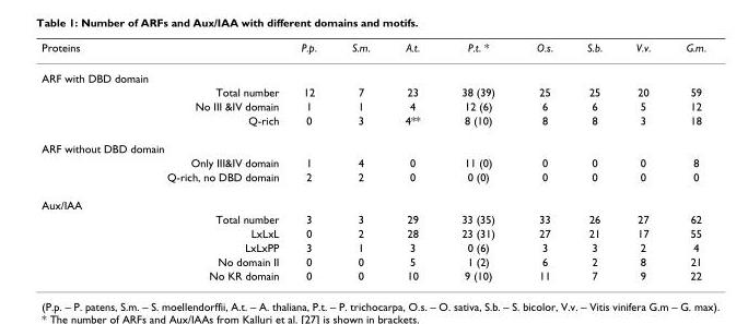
<table><thead><tr><td>Proteins</td><td>P.p.</td><td>S.m.</td><td>A.t.</td><td>P.t. *</td><td>O.s.</td><td>S.b.</td><td>V.v.</td><td>G.m.</td></tr></thead><tbody><tr><td colspan="9">ARF with DBD domain</td></tr><tr><td>Total number</td><td>12</td><td>7</td><td>23</td><td>38 (39)</td><td>25</td><td>25</td><td>20</td><td>59</td></tr><tr><td>No III &amp;IV domain</td><td>1</td><td>1</td><td>4</td><td>12 (6)</td><td>6</td><td>6</td><td>5</td><td>12</td></tr><tr><td>Q-rich</td><td>0</td><td>3</td><td>4**</td><td>8 (10)</td><td>8</td><td>8</td><td>3</td><td>18</td></tr><tr><td colspan="9">ARF without DBD domain</td></tr><tr><td>Only III&amp;IV domain</td><td>1</td><td>4</td><td>0</td><td>11 (0)</td><td>0</td><td>0</td><td>0</td><td>8</td></tr><tr><td>Q-rich, no DBD domain</td><td>2</td><td>2</td><td>0</td><td>0 (0)</td><td>0</td><td>0</td><td>0</td><td>0</td></tr><tr><td colspan="9">Aux/IAA</td></tr><tr><td>Total number</td><td>3</td><td>3</td><td>29</td><td>33 (35)</td><td>33</td><td>26</td><td>27</td><td>62</td></tr><tr><td>LxLxL</td><td>0</td><td>2</td><td>28</td><td>23 (31)</td><td>27</td><td>21</td><td>17</td><td>55</td></tr><tr><td>LxLxPP</td><td>3</td><td>1</td><td>3</td><td>0 (6)</td><td>3</td><td>3</td><td>2</td><td>4</td></tr><tr><td>No domain II</td><td>0</td><td>0</td><td>5</td><td>1 (2)</td><td>6</td><td>2</td><td>8</td><td>21</td></tr><tr><td>No KR domain</td><td>0</td><td>0</td><td>10</td><td>9 (10)</td><td>11</td><td>7</td><td>9</td><td>22</td></tr></tbody></table>